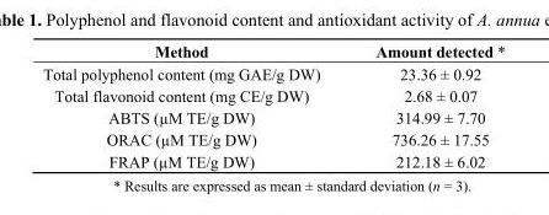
<table><thead><tr><td>Method</td><td>Amount detected *</td></tr></thead><tbody><tr><td>Total polyphenol content (mg GAE/g DW)</td><td>23.36 ± 0.92</td></tr><tr><td>Total flavonoid content (mg CE/g DW)</td><td>2.68 ± 0.07</td></tr><tr><td>ABTS (µM TE/g DW)</td><td>314.99 ± 7.70</td></tr><tr><td>ORAC (µM TE/g DW)</td><td>736.26 ± 17.55</td></tr><tr><td>FRAP (µM TE/g DW)</td><td>212.18 ± 6.02</td></tr></tbody></table>